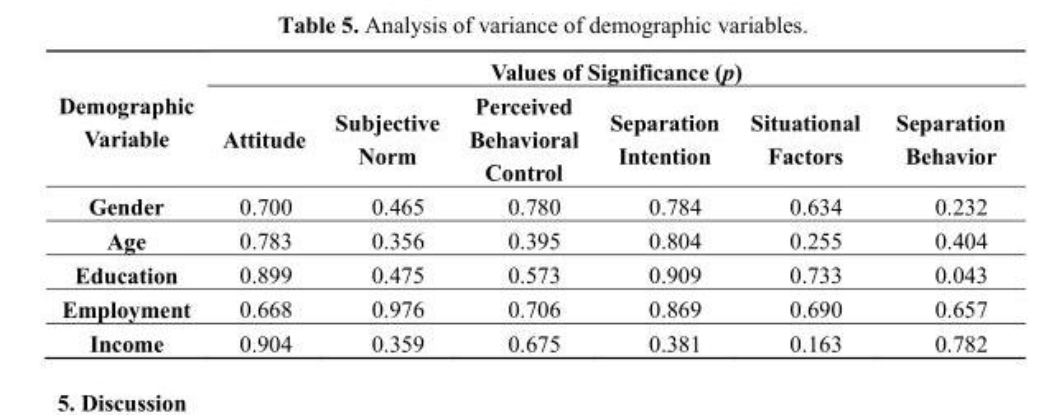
<table><thead><tr><td rowspan="2">Demographic Variable</td><td colspan="6">Values of Significance (p)</td></tr><tr><td>Attitude</td><td>Subjective Norm</td><td>Perceived Behavioral Control</td><td>Separation Intention</td><td>Situational Factors</td><td>Separation Behavior</td></tr></thead><tbody><tr><td>Gender</td><td>0.700</td><td>0.465</td><td>0.780</td><td>0.784</td><td>0.634</td><td>0.232</td></tr><tr><td>Age</td><td>0.783</td><td>0.356</td><td>0.395</td><td>0.804</td><td>0.255</td><td>0.404</td></tr><tr><td>Education</td><td>0.899</td><td>0.475</td><td>0.573</td><td>0.909</td><td>0.733</td><td>0.043</td></tr><tr><td>Employment</td><td>0.668</td><td>0.976</td><td>0.706</td><td>0.869</td><td>0.690</td><td>0.657</td></tr><tr><td>Income</td><td>0.904</td><td>0.359</td><td>0.675</td><td>0.381</td><td>0.163</td><td>0.782</td></tr></tbody></table>